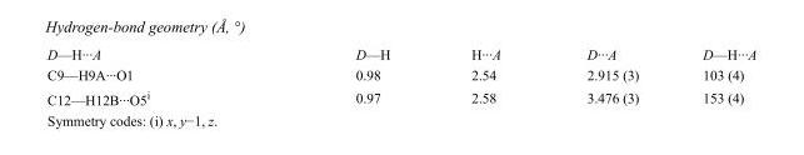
<table><tbody><tr><td>D—H···A</td><td>D—H</td><td>H···A</td><td>D···A</td><td>D—H···A</td></tr><tr><td>C9—H9A···O1</td><td>0.98</td><td>2.54</td><td>2.915 (3)</td><td>103 (4)</td></tr><tr><td>C12—H12B···O5<sup>i</sup></td><td>0.97</td><td>2.58</td><td>3.476 (3)</td><td>153 (4)</td></tr></tbody></table>